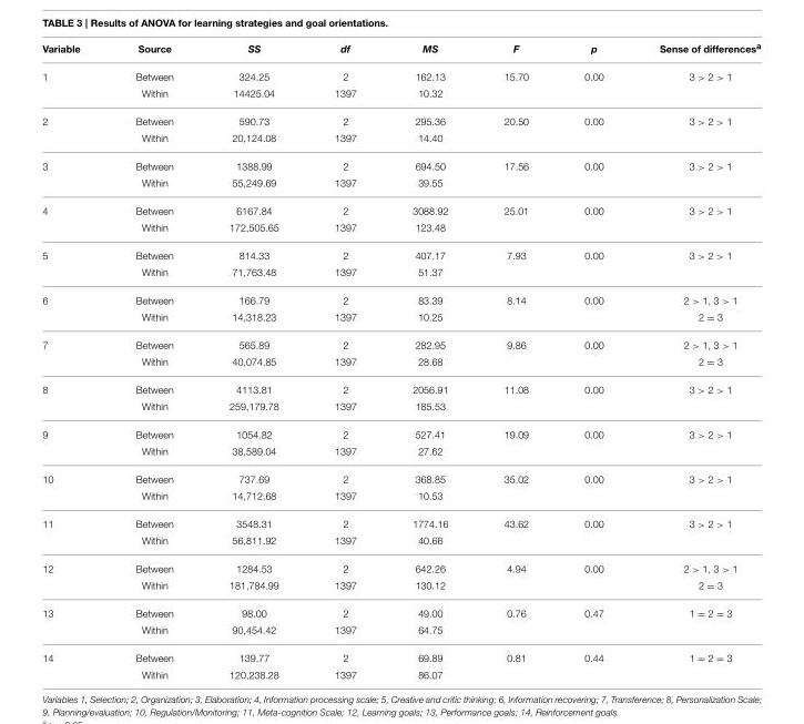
<table><thead><tr><td>Variable</td><td>Source</td><td>SS</td><td>df</td><td>MS</td><td>F</td><td>p</td><td>Sense of differences<sup>a</sup></td></tr></thead><tbody><tr><td rowspan="2">1</td><td>Between</td><td>324.25</td><td>2</td><td>162.13</td><td>15.70</td><td>0.00</td><td>3 &gt; 2 &gt; 1</td></tr><tr><td>Within</td><td>14425.04</td><td>1397</td><td>10.32</td><td></td><td></td><td></td></tr><tr><td rowspan="2">2</td><td>Between</td><td>590.73</td><td>2</td><td>295.36</td><td>20.50</td><td>0.00</td><td>3 &gt; 2 &gt; 1</td></tr><tr><td>Within</td><td>20,124.08</td><td>1397</td><td>14.40</td><td></td><td></td><td></td></tr><tr><td rowspan="2">3</td><td>Between</td><td>1388.99</td><td>2</td><td>694.50</td><td>17.56</td><td>0.00</td><td>3 &gt; 2 &gt; 1</td></tr><tr><td>Within</td><td>55,249.69</td><td>1397</td><td>39.55</td><td></td><td></td><td></td></tr><tr><td rowspan="2">4</td><td>Between</td><td>6167.84</td><td>2</td><td>3088.92</td><td>25.01</td><td>0.00</td><td>3 &gt; 2 &gt; 1</td></tr><tr><td>Within</td><td>172,505.65</td><td>1397</td><td>123.48</td><td></td><td></td><td></td></tr><tr><td rowspan="2">5</td><td>Between</td><td>814.33</td><td>2</td><td>407.17</td><td>7.93</td><td>0.00</td><td>3 &gt; 2 &gt; 1</td></tr><tr><td>Within</td><td>71,763.48</td><td>1397</td><td>51.37</td><td></td><td></td><td></td></tr><tr><td rowspan="2">6</td><td>Between</td><td>166.79</td><td>2</td><td>83.39</td><td>8.14</td><td>0.00</td><td>2 &gt; 1, 3 &gt; 1</td></tr><tr><td>Within</td><td>14,318.23</td><td>1397</td><td>10.25</td><td></td><td></td><td>2 = 3</td></tr><tr><td rowspan="2">7</td><td>Between</td><td>565.89</td><td>2</td><td>282.95</td><td>9.86</td><td>0.00</td><td>2 &gt; 1, 3 &gt; 1</td></tr><tr><td>Within</td><td>40,074.85</td><td>1397</td><td>28.68</td><td></td><td></td><td>2 = 3</td></tr><tr><td rowspan="2">8</td><td>Between</td><td>4113.81</td><td>2</td><td>2056.91</td><td>11.08</td><td>0.00</td><td>3 &gt; 2 &gt; 1</td></tr><tr><td>Within</td><td>259,179.78</td><td>1397</td><td>185.53</td><td></td><td></td><td></td></tr><tr><td rowspan="2">9</td><td>Between</td><td>1054.82</td><td>2</td><td>527.41</td><td>19.09</td><td>0.00</td><td>3 &gt; 2 &gt; 1</td></tr><tr><td>Within</td><td>38,589.04</td><td>1397</td><td>27.62</td><td></td><td></td><td></td></tr><tr><td rowspan="2">10</td><td>Between</td><td>737.69</td><td>2</td><td>368.85</td><td>35.02</td><td>0.00</td><td>3 &gt; 2 &gt; 1</td></tr><tr><td>Within</td><td>14,712.68</td><td>1397</td><td>10.53</td><td></td><td></td><td></td></tr><tr><td rowspan="2">11</td><td>Between</td><td>3548.31</td><td>2</td><td>1774.16</td><td>43.62</td><td>0.00</td><td>3 &gt; 2 &gt; 1</td></tr><tr><td>Within</td><td>56,811.92</td><td>1397</td><td>40.66</td><td></td><td></td><td></td></tr><tr><td rowspan="2">12</td><td>Between</td><td>1284.53</td><td>2</td><td>642.26</td><td>4.94</td><td>0.00</td><td>2 &gt; 1, 3 &gt; 1</td></tr><tr><td>Within</td><td>181,784.99</td><td>1397</td><td>130.12</td><td></td><td></td><td>2 = 3</td></tr><tr><td rowspan="2">13</td><td>Between</td><td>98.00</td><td>2</td><td>49.00</td><td>0.76</td><td>0.47</td><td>1 = 2 = 3</td></tr><tr><td>Within</td><td>90,454.42</td><td>1397</td><td>64.75</td><td></td><td></td><td></td></tr><tr><td rowspan="2">14</td><td>Between</td><td>139.77</td><td>2</td><td>69.89</td><td>0.81</td><td>0.44</td><td>1 = 2 = 3</td></tr><tr><td>Within</td><td>120,238.28</td><td>1397</td><td>86.07</td><td></td><td></td><td></td></tr></tbody></table>